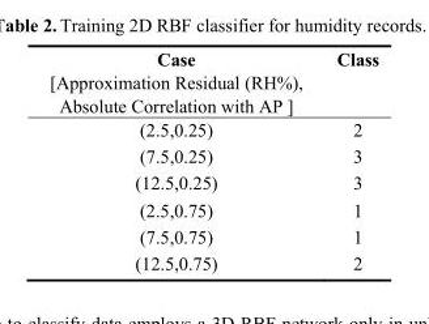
<table><thead><tr><td>Case [Approximation Residual (RH%), Absolute Correlation with AP ]</td><td>Class</td></tr></thead><tbody><tr><td>(2.5,0.25)</td><td>2</td></tr><tr><td>(7.5,0.25)</td><td>3</td></tr><tr><td>(12.5,0.25)</td><td>3</td></tr><tr><td>(2.5,0.75)</td><td>1</td></tr><tr><td>(7.5,0.75)</td><td>1</td></tr><tr><td>(12.5,0.75)</td><td>2</td></tr></tbody></table>